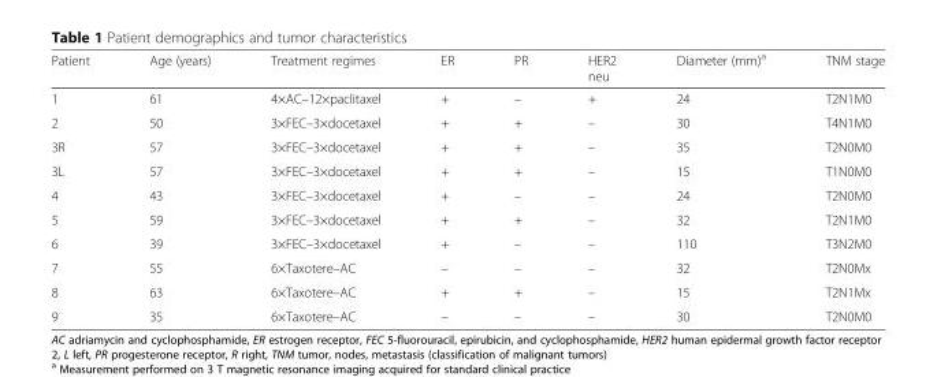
<table><thead><tr><td>Patient</td><td>Age (years)</td><td>Treatment regimes</td><td>ER</td><td>PR</td><td>HER2 neu</td><td>Diameter (mm)<sup>a</sup></td><td>TNM stage</td></tr></thead><tbody><tr><td>1</td><td>61</td><td>4×AC–12×paclitaxel</td><td>+</td><td>–</td><td>+</td><td>24</td><td>T2N1M0</td></tr><tr><td>2</td><td>50</td><td>3×FEC–3×docetaxel</td><td>+</td><td>+</td><td>–</td><td>30</td><td>T4N1M0</td></tr><tr><td>3R</td><td>57</td><td>3×FEC–3×docetaxel</td><td>+</td><td>+</td><td>–</td><td>35</td><td>T2N0M0</td></tr><tr><td>3L</td><td>57</td><td>3×FEC–3×docetaxel</td><td>+</td><td>+</td><td>–</td><td>15</td><td>T1N0M0</td></tr><tr><td>4</td><td>43</td><td>3×FEC–3×docetaxel</td><td>+</td><td>–</td><td>–</td><td>24</td><td>T2N0M0</td></tr><tr><td>5</td><td>59</td><td>3×FEC–3×docetaxel</td><td>+</td><td>+</td><td>–</td><td>32</td><td>T2N1M0</td></tr><tr><td>6</td><td>39</td><td>3×FEC–3×docetaxel</td><td>+</td><td>–</td><td>–</td><td>110</td><td>T3N2M0</td></tr><tr><td>7</td><td>55</td><td>6×Taxotere–AC</td><td>–</td><td>–</td><td>–</td><td>32</td><td>T2N0Mx</td></tr><tr><td>8</td><td>63</td><td>6×Taxotere–AC</td><td>+</td><td>+</td><td>–</td><td>15</td><td>T2N1Mx</td></tr><tr><td>9</td><td>35</td><td>6×Taxotere–AC</td><td>–</td><td>–</td><td>–</td><td>30</td><td>T2N0M0</td></tr></tbody></table>